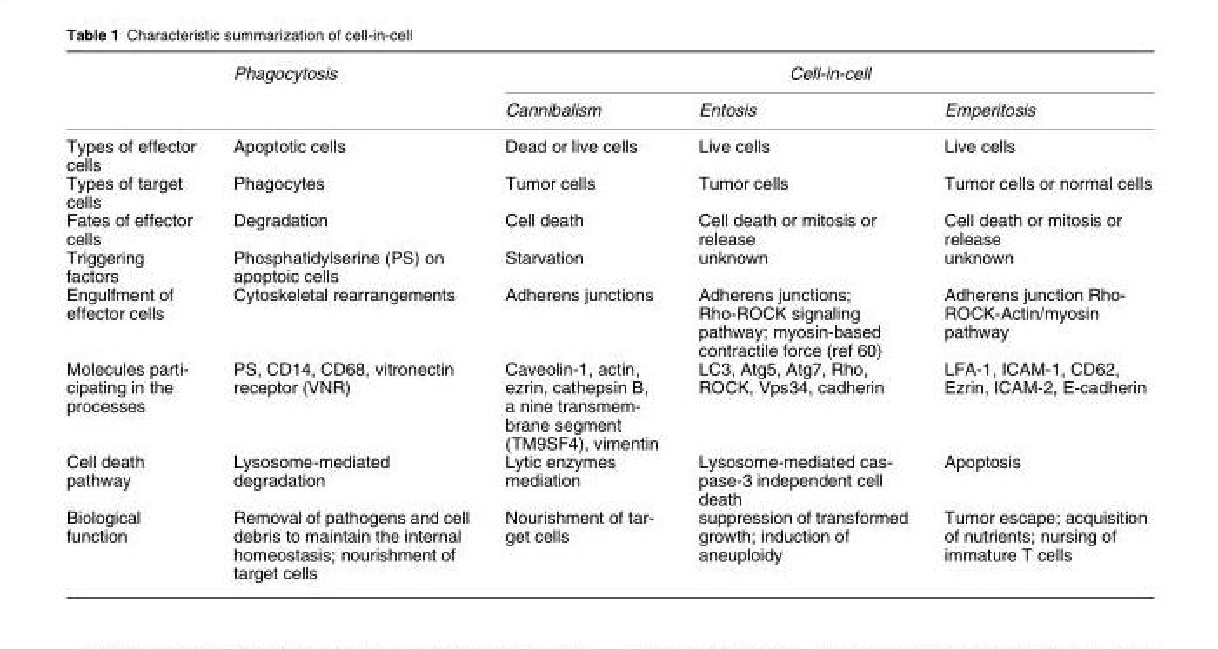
<table><thead><tr><td rowspan="2"></td><td rowspan="2">Phagocytosis</td><td colspan="3">Cell-in-cell</td></tr><tr><td>Cannibalism</td><td>Entosis</td><td>Emperitosis</td></tr></thead><tbody><tr><td>Types of effector cells</td><td>Apoptotic cells</td><td>Dead or live cells</td><td>Live cells</td><td>Live cells</td></tr><tr><td>Types of target cells</td><td>Phagocytes</td><td>Tumor cells</td><td>Tumor cells</td><td>Tumor cells or normal cells</td></tr><tr><td>Fates of effector cells</td><td>Degradation</td><td>Cell death</td><td>Cell death or mitosis or release</td><td>Cell death or mitosis or release</td></tr><tr><td>Triggering factors</td><td>Phosphatidylserine (PS) on apoptoic cells</td><td>Starvation</td><td>unknown</td><td>unknown</td></tr><tr><td>Engulfment of effector cells</td><td>Cytoskeletal rearrangements</td><td>Adherens junctions</td><td>Adherens junctions; Rho-ROCK signaling pathway; myosin-based contractile force (ref 60)</td><td>Adherens junction Rho- ROCK-Actin/myosin pathway</td></tr><tr><td>Molecules parti- cipating in the processes</td><td>PS, CD14, CD68, vitronectin receptor (VNR)</td><td>Caveolin-1, actin, ezrin, cathepsin B, a nine transmem- brane segment (TM9SF4), vimentin</td><td>LC3, Atg5, Atg7, Rho, ROCK, Vps34, cadherin</td><td>LFA-1, ICAM-1, CD62, Ezrin, ICAM-2, E-cadherin</td></tr><tr><td>Cell death pathway</td><td>Lysosome-mediated degradation</td><td>Lytic enzymes mediation</td><td>Lysosome-mediated cas- pase-3 independent cell death</td><td>Apoptosis</td></tr><tr><td>Biological function</td><td>Removal of pathogens and cell debris to maintain the internal homeostasis; nourishment of target cells</td><td>Nourishment of tar- get cells</td><td>suppression of transformed growth; induction of aneuploidy</td><td>Tumor escape; acquisition of nutrients; nursing of immature T cells</td></tr></tbody></table>